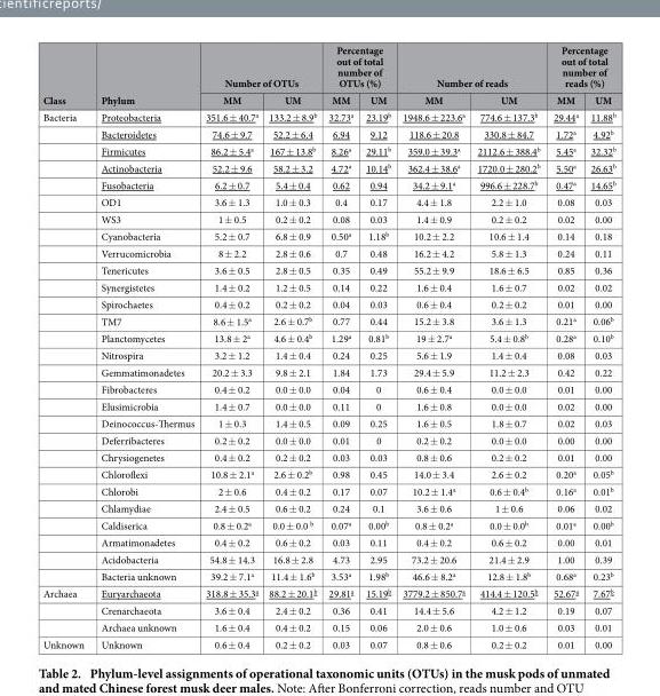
<table><thead><tr><td rowspan="2">Class</td><td rowspan="2">Phylum</td><td colspan="2">Number of OTUs</td><td colspan="2">Percentage out of total number of OTUs (%)</td><td colspan="2">Number of reads</td><td colspan="2">Percentage out of total number of reads (%)</td></tr><tr><td>MM</td><td>UM</td><td>MM</td><td>UM</td><td>MM</td><td>UM</td><td>MM</td><td>UM</td></tr></thead><tbody><tr><td rowspan="28">Bacteria</td><td>Proteobacteria</td><td>351.6 ± 40.7<sup>a</sup></td><td>133.2 ± 8.9<sup>b</sup></td><td>32.73<sup>a</sup></td><td>23.19<sup>b</sup></td><td>1948.6 ± 223.6<sup>a</sup></td><td>774.6 ± 137.3<sup>b</sup></td><td>29.44<sup>a</sup></td><td>11.88<sup>b</sup></td></tr><tr><td>Bacteroidetes</td><td>74.6 ± 9.7</td><td>52.2 ± 6.4</td><td>6.94</td><td>9.12</td><td>118.6 ± 20.8</td><td>330.8 ± 84.7</td><td>1.72<sup>a</sup></td><td>4.92<sup>b</sup></td></tr><tr><td>Firmicutes</td><td>86.2 ± 5.4<sup>a</sup></td><td>167 ± 13.8<sup>b</sup></td><td>8.26<sup>a</sup></td><td>29.11<sup>b</sup></td><td>359.0 ± 39.3<sup>a</sup></td><td>2112.6 ± 388.4<sup>b</sup></td><td>5.45<sup>a</sup></td><td>32.32<sup>b</sup></td></tr><tr><td>Actinobacteria</td><td>52.2 ± 9.6</td><td>58.2 ± 3.2</td><td>4.72<sup>a</sup></td><td>10.14<sup>b</sup></td><td>362.4 ± 38.6<sup>a</sup></td><td>1720.0 ± 280.2<sup>b</sup></td><td>5.50<sup>a</sup></td><td>26.63<sup>b</sup></td></tr><tr><td>Fusobacteria</td><td>6.2 ± 0.7</td><td>5.4 ± 0.4</td><td>0.62</td><td>0.94</td><td>34.2 ± 9.1<sup>a</sup></td><td>996.6 ± 228.7<sup>b</sup></td><td>0.47<sup>a</sup></td><td>14.65<sup>b</sup></td></tr><tr><td>OD1</td><td>3.6 ± 1.3</td><td>1.0 ± 0.3</td><td>0.4</td><td>0.17</td><td>4.4 ± 1.8</td><td>2.2 ± 1.0</td><td>0.08</td><td>0.03</td></tr><tr><td>WS3</td><td>1 ± 0.5</td><td>0.2 ± 0.2</td><td>0.08</td><td>0.03</td><td>1.4 ± 0.9</td><td>0.2 ± 0.2</td><td>0.02</td><td>0.00</td></tr><tr><td>Cyanobacteria</td><td>5.2 ± 0.7</td><td>6.8 ± 0.9</td><td>0.50<sup>a</sup></td><td>1.18<sup>b</sup></td><td>10.2 ± 2.2</td><td>10.6 ± 1.4</td><td>0.14</td><td>0.18</td></tr><tr><td>Verrucomicrobia</td><td>8 ± 2.2</td><td>2.8 ± 0.6</td><td>0.7</td><td>0.48</td><td>16.2 ± 4.2</td><td>5.8 ± 1.3</td><td>0.24</td><td>0.11</td></tr><tr><td>Tenericutes</td><td>3.6 ± 0.5</td><td>2.8 ± 0.5</td><td>0.35</td><td>0.49</td><td>55.2 ± 9.9</td><td>18.6 ± 6.5</td><td>0.85</td><td>0.36</td></tr><tr><td>Synergistetes</td><td>1.4 ± 0.2</td><td>1.2 ± 0.5</td><td>0.14</td><td>0.22</td><td>1.6 ± 0.4</td><td>1.6 ± 0.7</td><td>0.02</td><td>0.02</td></tr><tr><td>Spirochaetes</td><td>0.4 ± 0.2</td><td>0.2 ± 0.2</td><td>0.04</td><td>0.03</td><td>0.6 ± 0.4</td><td>0.2 ± 0.2</td><td>0.01</td><td>0.00</td></tr><tr><td>TM7</td><td>8.6 ± 1.5<sup>a</sup></td><td>2.6 ± 0.7<sup>b</sup></td><td>0.77</td><td>0.44</td><td>15.2 ± 3.8</td><td>3.6 ± 1.3</td><td>0.21<sup>a</sup></td><td>0.06<sup>b</sup></td></tr><tr><td>Planctomycetes</td><td>13.8 ± 2<sup>a</sup></td><td>4.6 ± 0.4<sup>b</sup></td><td>1.29<sup>a</sup></td><td>0.81<sup>b</sup></td><td>19 ± 2.7<sup>a</sup></td><td>5.4 ± 0.8<sup>b</sup></td><td>0.28<sup>a</sup></td><td>0.10<sup>b</sup></td></tr><tr><td>Nitrospira</td><td>3.2 ± 1.2</td><td>1.4 ± 0.4</td><td>0.24</td><td>0.25</td><td>5.6 ± 1.9</td><td>1.4 ± 0.4</td><td>0.08</td><td>0.03</td></tr><tr><td>Gemmatimonadetes</td><td>20.2 ± 3.3</td><td>9.8 ± 2.1</td><td>1.84</td><td>1.73</td><td>29.4 ± 5.9</td><td>11.2 ± 2.3</td><td>0.42</td><td>0.22</td></tr><tr><td>Fibrobacteres</td><td>0.4 ± 0.2</td><td>0.0 ± 0.0</td><td>0.04</td><td>0</td><td>0.6 ± 0.4</td><td>0.0 ± 0.0</td><td>0.01</td><td>0.00</td></tr><tr><td>Elusimicrobia</td><td>1.4 ± 0.7</td><td>0.0 ± 0.0</td><td>0.11</td><td>0</td><td>1.6 ± 0.8</td><td>0.0 ± 0.0</td><td>0.02</td><td>0.00</td></tr><tr><td>Deinococcus-Thermus</td><td>1 ± 0.3</td><td>1.4 ± 0.5</td><td>0.09</td><td>0.25</td><td>1.6 ± 0.5</td><td>1.8 ± 0.7</td><td>0.02</td><td>0.03</td></tr><tr><td>Deferribacteres</td><td>0.2 ± 0.2</td><td>0.0 ± 0.0</td><td>0.01</td><td>0</td><td>0.2 ± 0.2</td><td>0.0 ± 0.0</td><td>0.00</td><td>0.00</td></tr><tr><td>Chrysiogenetes</td><td>0.4 ± 0.2</td><td>0.2 ± 0.2</td><td>0.03</td><td>0.03</td><td>0.8 ± 0.6</td><td>0.2 ± 0.2</td><td>0.01</td><td>0.00</td></tr><tr><td>Chloroflexi</td><td>10.8 ± 2.1<sup>a</sup></td><td>2.6 ± 0.2<sup>b</sup></td><td>0.98</td><td>0.45</td><td>14.0 ± 3.4</td><td>2.6 ± 0.2</td><td>0.20<sup>a</sup></td><td>0.05<sup>b</sup></td></tr><tr><td>Chlorobi</td><td>2 ± 0.6</td><td>0.4 ± 0.2</td><td>0.17</td><td>0.07</td><td>10.2 ± 1.4<sup>a</sup></td><td>0.6 ± 0.4<sup>b</sup></td><td>0.16<sup>a</sup></td><td>0.01<sup>b</sup></td></tr><tr><td>Chlamydiae</td><td>2.4 ± 0.5</td><td>0.6 ± 0.2</td><td>0.24</td><td>0.1</td><td>3.6 ± 0.6</td><td>1 ± 0.6</td><td>0.06</td><td>0.02</td></tr><tr><td>Caldiserica</td><td>0.8 ± 0.2<sup>a</sup></td><td>0.0 ± 0.0 <sup>b</sup></td><td>0.07<sup>a</sup></td><td>0.00<sup>b</sup></td><td>0.8 ± 0.2<sup>a</sup></td><td>0.0 ± 0.0<sup>b</sup></td><td>0.01<sup>a</sup></td><td>0.00<sup>b</sup></td></tr><tr><td>Armatimonadetes</td><td>0.4 ± 0.2</td><td>0.6 ± 0.2</td><td>0.03</td><td>0.11</td><td>0.4 ± 0.2</td><td>0.6 ± 0.2</td><td>0.00</td><td>0.01</td></tr><tr><td>Acidobacteria</td><td>54.8 ± 14.3</td><td>16.8 ± 2.8</td><td>4.73</td><td>2.95</td><td>73.2 ± 20.6</td><td>21.4 ± 2.9</td><td>1.00</td><td>0.39</td></tr><tr><td>Bacteria unknown</td><td>39.2 ± 7.1<sup>a</sup></td><td>11.4 ± 1.6<sup>b</sup></td><td>3.53<sup>a</sup></td><td>1.98<sup>b</sup></td><td>46.6 ± 8.2<sup>a</sup></td><td>12.8 ± 1.8<sup>b</sup></td><td>0.68<sup>a</sup></td><td>0.23<sup>b</sup></td></tr><tr><td rowspan="3">Archaea</td><td>Euryarchaeota</td><td>318.8 ± 35.3<sup>a</sup></td><td>88.2 ± 20.1<sup>b</sup></td><td>29.81<sup>a</sup></td><td>15.19<sup>b</sup></td><td>3779.2 ± 850.7<sup>a</sup></td><td>414.4 ± 120.5<sup>b</sup></td><td>52.67<sup>a</sup></td><td>7.67<sup>b</sup></td></tr><tr><td>Crenarchaeota</td><td>3.6 ± 0.4</td><td>2.4 ± 0.2</td><td>0.36</td><td>0.41</td><td>14.4 ± 5.6</td><td>4.2 ± 1.2</td><td>0.19</td><td>0.07</td></tr><tr><td>Archaea unknown</td><td>1.6 ± 0.4</td><td>0.4 ± 0.2</td><td>0.15</td><td>0.06</td><td>2.0 ± 0.6</td><td>1.0 ± 0.6</td><td>0.03</td><td>0.01</td></tr><tr><td>Unknown</td><td>Unknown</td><td>0.6 ± 0.4</td><td>0.2 ± 0.2</td><td>0.03</td><td>0.07</td><td>0.8 ± 0.6</td><td>0.2 ± 0.2</td><td>0.01</td><td>0.00</td></tr></tbody></table>